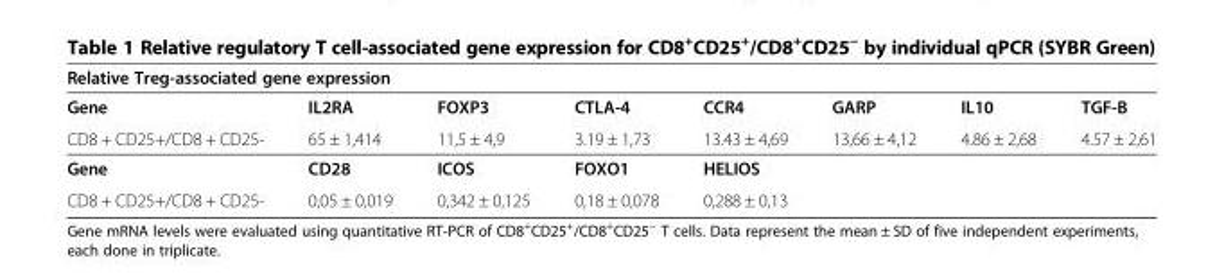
<table><thead><tr><td colspan="8">Relative Treg-associated gene expression</td></tr><tr><td>Gene</td><td>IL2RA</td><td>FOXP3</td><td>CTLA-4</td><td>CCR4</td><td>GARP</td><td>IL10</td><td>TGF-B</td></tr></thead><tbody><tr><td>CD8 + CD25+/CD8 + CD25-</td><td>65 ± 1,414</td><td>11,5 ± 4,9</td><td>3.19 ± 1,73</td><td>13.43 ± 4,69</td><td>13,66 ± 4,12</td><td>4.86 ± 2,68</td><td>4.57 ± 2,61</td></tr><tr><td>Gene</td><td>CD28</td><td>ICOS</td><td>FOXO1</td><td>HELIOS</td><td></td><td></td><td></td></tr><tr><td>CD8 + CD25+/CD8 + CD25-</td><td>0,05 ± 0,019</td><td>0,342 ± 0,125</td><td>0,18 ± 0,078</td><td>0,288 ± 0,13</td><td></td><td></td><td></td></tr></tbody></table>